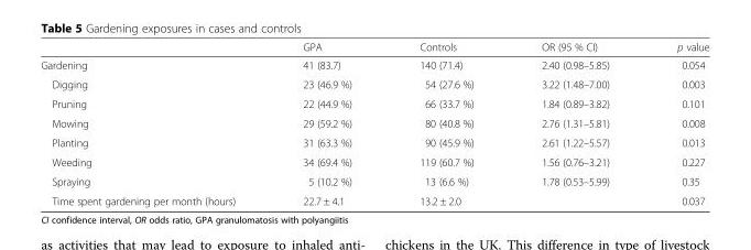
<table><thead><tr><td></td><td>GPA</td><td>Controls</td><td>OR (95 % CI)</td><td>p value</td></tr></thead><tbody><tr><td>Gardening</td><td>41 (83.7)</td><td>140 (71.4)</td><td>2.40 (0.98–5.85)</td><td>0.054</td></tr><tr><td>Digging</td><td>23 (46.9 %)</td><td>54 (27.6 %)</td><td>3.22 (1.48–7.00)</td><td>0.003</td></tr><tr><td>Pruning</td><td>22 (44.9 %)</td><td>66 (33.7 %)</td><td>1.84 (0.89–3.82)</td><td>0.101</td></tr><tr><td>Mowing</td><td>29 (59.2 %)</td><td>80 (40.8 %)</td><td>2.76 (1.31–5.81)</td><td>0.008</td></tr><tr><td>Planting</td><td>31 (63.3 %)</td><td>90 (45.9 %)</td><td>2.61 (1.22–5.57)</td><td>0.013</td></tr><tr><td>Weeding</td><td>34 (69.4 %)</td><td>119 (60.7 %)</td><td>1.56 (0.76–3.21)</td><td>0.227</td></tr><tr><td>Spraying</td><td>5 (10.2 %)</td><td>13 (6.6 %)</td><td>1.78 (0.53–5.99)</td><td>0.35</td></tr><tr><td>Time spent gardening per month (hours)</td><td>22.7 ± 4.1</td><td>13.2 ± 2.0</td><td></td><td>0.037</td></tr></tbody></table>